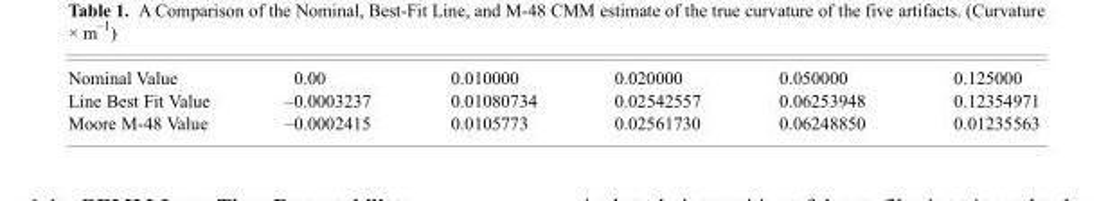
<table><tbody><tr><td>Nominal Value</td><td>0.00</td><td>0.010000</td><td>0.020000</td><td>0.050000</td><td>0.125000</td></tr><tr><td>Line Best Fit Value</td><td>–0.0003237</td><td>0.01080734</td><td>0.02542557</td><td>0.06253948</td><td>0.12354971</td></tr><tr><td>Moore M-48 Value</td><td>–0.0002415</td><td>0.0105773</td><td>0.02561730</td><td>0.06248850</td><td>0.01235563</td></tr></tbody></table>